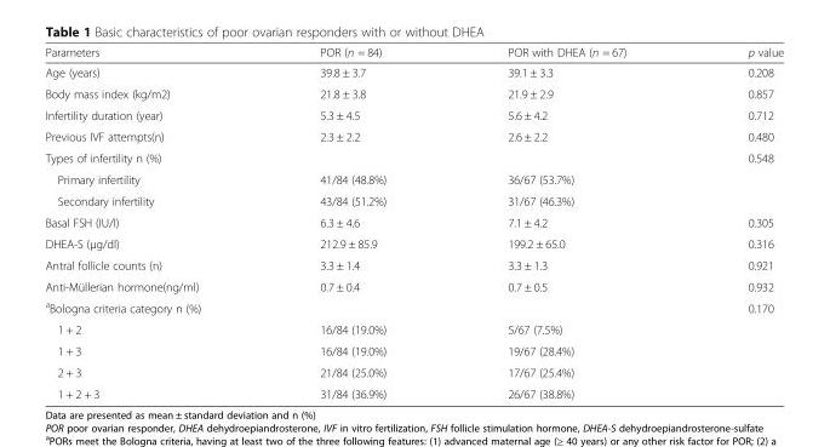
<table><thead><tr><td>Parameters</td><td>POR (n = 84)</td><td>POR with DHEA (n = 67)</td><td>p value</td></tr></thead><tbody><tr><td>Age (years)</td><td>39.8 ± 3.7</td><td>39.1 ± 3.3</td><td>0.208</td></tr><tr><td>Body mass index (kg/m2)</td><td>21.8 ± 3.8</td><td>21.9 ± 2.9</td><td>0.857</td></tr><tr><td>Infertility duration (year)</td><td>5.3 ± 4.5</td><td>5.6 ± 4.2</td><td>0.712</td></tr><tr><td>Previous IVF attempts(n)</td><td>2.3 ± 2.2</td><td>2.6 ± 2.2</td><td>0.480</td></tr><tr><td colspan="3">Types of infertility n (%)</td><td>0.548</td></tr><tr><td>Primary infertility</td><td>41/84 (48.8%)</td><td>36/67 (53.7%)</td><td></td></tr><tr><td>Secondary infertility</td><td>43/84 (51.2%)</td><td>31/67 (46.3%)</td><td></td></tr><tr><td>Basal FSH (IU/l)</td><td>6.3 ± 4.6</td><td>7.1 ± 4.2</td><td>0.305</td></tr><tr><td>DHEA-S (μg/dl)</td><td>212.9 ± 85.9</td><td>199.2 ± 65.0</td><td>0.316</td></tr><tr><td>Antral follicle counts (n)</td><td>3.3 ± 1.4</td><td>3.3 ± 1.3</td><td>0.921</td></tr><tr><td>Anti-Müllerian hormone(ng/ml)</td><td>0.7 ± 0.4</td><td>0.7 ± 0.5</td><td>0.932</td></tr><tr><td colspan="3"><sup>a</sup>Bologna criteria category n (%)</td><td>0.170</td></tr><tr><td>1 + 2</td><td>16/84 (19.0%)</td><td>5/67 (7.5%)</td><td></td></tr><tr><td>1 + 3</td><td>16/84 (19.0%)</td><td>19/67 (28.4%)</td><td></td></tr><tr><td>2 + 3</td><td>21/84 (25.0%)</td><td>17/67 (25.4%)</td><td></td></tr><tr><td>1 + 2 + 3</td><td>31/84 (36.9%)</td><td>26/67 (38.8%)</td><td></td></tr></tbody></table>